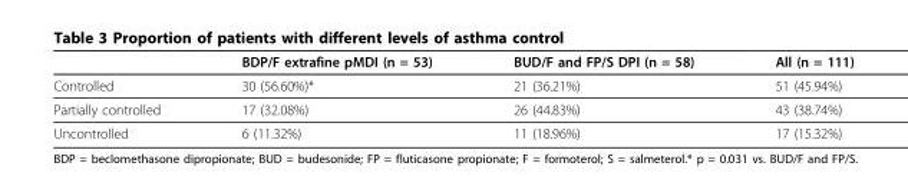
<table><thead><tr><td></td><td>BDP/F extrafine pMDI (n = 53)</td><td>BUD/F and FP/S DPI (n = 58)</td><td>All (n = 111)</td></tr></thead><tbody><tr><td>Controlled</td><td>30 (56.60%)*</td><td>21 (36.21%)</td><td>51 (45.94%)</td></tr><tr><td>Partially controlled</td><td>17 (32.08%)</td><td>26 (44.83%)</td><td>43 (38.74%)</td></tr><tr><td>Uncontrolled</td><td>6 (11.32%)</td><td>11 (18.96%)</td><td>17 (15.32%)</td></tr></tbody></table>